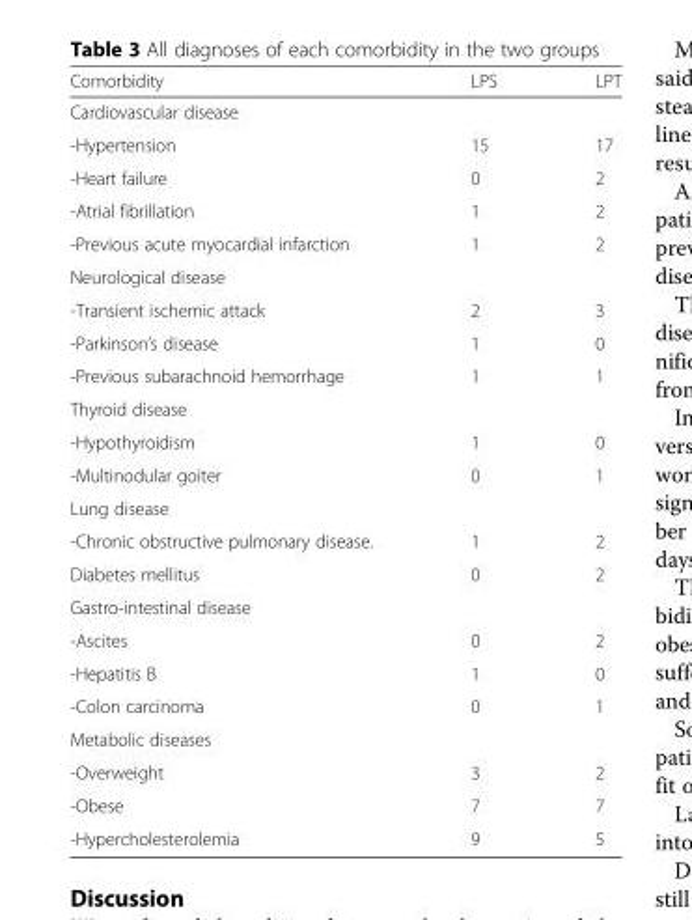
<table><thead><tr><td>Comorbidity</td><td>LPS</td><td>LPT</td></tr></thead><tbody><tr><td colspan="3">Cardiovascular disease</td></tr><tr><td>-Hypertension</td><td>15</td><td>17</td></tr><tr><td>-Heart failure</td><td>0</td><td>2</td></tr><tr><td>-Atrial fibrillation</td><td>1</td><td>2</td></tr><tr><td>-Previous acute myocardial infarction</td><td>1</td><td>2</td></tr><tr><td colspan="3">Neurological disease</td></tr><tr><td>-Transient ischemic attack</td><td>2</td><td>3</td></tr><tr><td>-Parkinson’s disease</td><td>1</td><td>0</td></tr><tr><td>-Previous subarachnoid hemorrhage</td><td>1</td><td>1</td></tr><tr><td colspan="3">Thyroid disease</td></tr><tr><td>-Hypothyroidism</td><td>1</td><td>0</td></tr><tr><td>-Multinodular goiter</td><td>0</td><td>1</td></tr><tr><td colspan="3">Lung disease</td></tr><tr><td>-Chronic obstructive pulmonary disease.</td><td>1</td><td>2</td></tr><tr><td>Diabetes mellitus</td><td>0</td><td>2</td></tr><tr><td colspan="3">Gastro-intestinal disease</td></tr><tr><td>-Ascites</td><td>0</td><td>2</td></tr><tr><td>-Hepatitis B</td><td>1</td><td>0</td></tr><tr><td>-Colon carcinoma</td><td>0</td><td>1</td></tr><tr><td colspan="3">Metabolic diseases</td></tr><tr><td>-Overweight</td><td>3</td><td>2</td></tr><tr><td>-Obese</td><td>7</td><td>7</td></tr><tr><td>-Hypercholesterolemia</td><td>9</td><td>5</td></tr></tbody></table>